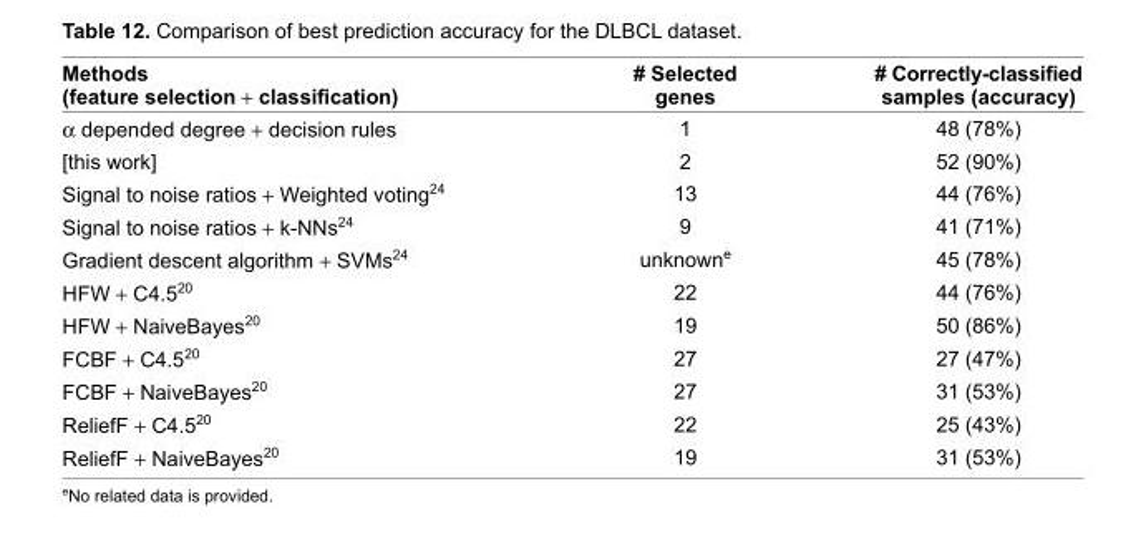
<table><thead><tr><td>Methods (feature selection + classifi cation)</td><td># Selected genes</td><td># Correctly-classifi ed samples (accuracy)</td></tr></thead><tbody><tr><td>α depended degree + decision rules</td><td>1</td><td>48 (78%)</td></tr><tr><td>[this work]</td><td>2</td><td>52 (90%)</td></tr><tr><td>Signal to noise ratios + Weighted voting<sup>24</sup></td><td>13</td><td>44 (76%)</td></tr><tr><td>Signal to noise ratios + k-NNs<sup>24</sup></td><td>9</td><td>41 (71%)</td></tr><tr><td>Gradient descent algorithm + SVMs<sup>24</sup></td><td>unknown<sup>e</sup></td><td>45 (78%)</td></tr><tr><td>HFW + C4.5<sup>20</sup></td><td>22</td><td>44 (76%)</td></tr><tr><td>HFW + NaiveBayes<sup>20</sup></td><td>19</td><td>50 (86%)</td></tr><tr><td>FCBF + C4.5<sup>20</sup></td><td>27</td><td>27 (47%)</td></tr><tr><td>FCBF + NaiveBayes<sup>20</sup></td><td>27</td><td>31 (53%)</td></tr><tr><td>ReliefF + C4.5<sup>20</sup></td><td>22</td><td>25 (43%)</td></tr><tr><td>ReliefF + NaiveBayes<sup>20</sup></td><td>19</td><td>31 (53%)</td></tr></tbody></table>